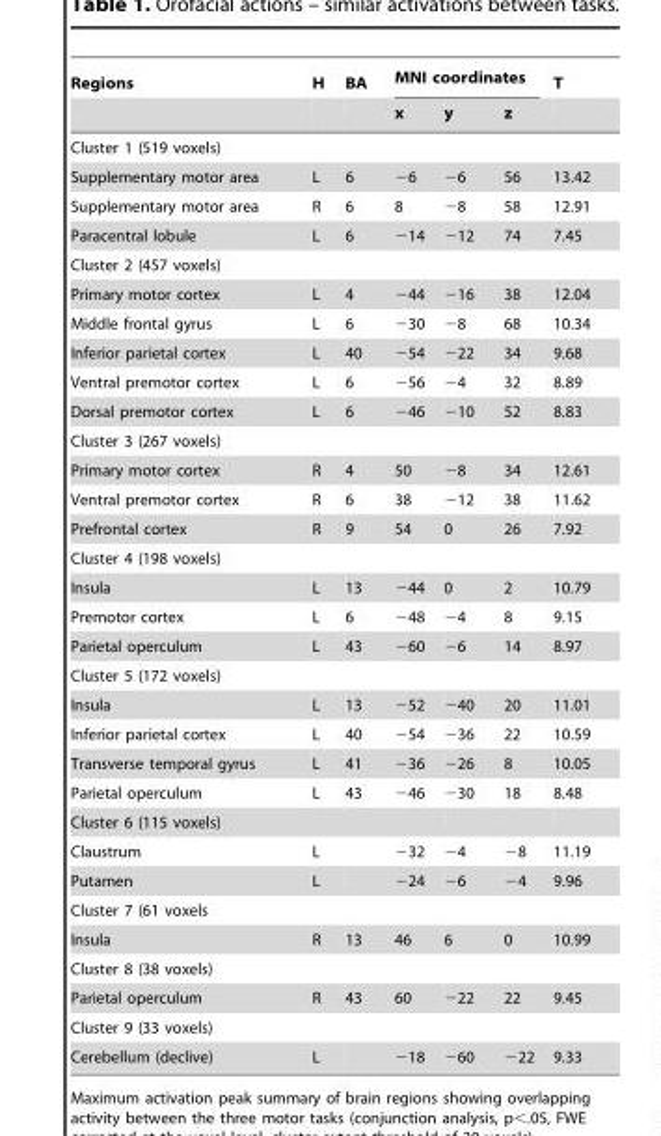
<table><thead><tr><td rowspan="2">Regions</td><td rowspan="2">H</td><td rowspan="2">BA</td><td colspan="3">MNI coordinates</td><td rowspan="2">T</td></tr><tr><td>x</td><td>y</td><td>z</td></tr></thead><tbody><tr><td colspan="7">Cluster 1 (519 voxels)</td></tr><tr><td>Supplementary motor area</td><td>L</td><td>6</td><td>−6</td><td>−6</td><td>56</td><td>13.42</td></tr><tr><td>Supplementary motor area</td><td>R</td><td>6</td><td>8</td><td>−8</td><td>58</td><td>12.91</td></tr><tr><td>Paracentral lobule</td><td>L</td><td>6</td><td>−14</td><td>−12</td><td>74</td><td>7.45</td></tr><tr><td colspan="7">Cluster 2 (457 voxels)</td></tr><tr><td>Primary motor cortex</td><td>L</td><td>4</td><td>−44</td><td>−16</td><td>38</td><td>12.04</td></tr><tr><td>Middle frontal gyrus</td><td>L</td><td>6</td><td>−30</td><td>−8</td><td>68</td><td>10.34</td></tr><tr><td>Inferior parietal cortex</td><td>L</td><td>40</td><td>−54</td><td>−22</td><td>34</td><td>9.68</td></tr><tr><td>Ventral premotor cortex</td><td>L</td><td>6</td><td>−56</td><td>−4</td><td>32</td><td>8.89</td></tr><tr><td>Dorsal premotor cortex</td><td>L</td><td>6</td><td>−46</td><td>−10</td><td>52</td><td>8.83</td></tr><tr><td colspan="7">Cluster 3 (267 voxels)</td></tr><tr><td>Primary motor cortex</td><td>R</td><td>4</td><td>50</td><td>−8</td><td>34</td><td>12.61</td></tr><tr><td>Ventral premotor cortex</td><td>R</td><td>6</td><td>38</td><td>−12</td><td>38</td><td>11.62</td></tr><tr><td>Prefrontal cortex</td><td>R</td><td>9</td><td>54</td><td>0</td><td>26</td><td>7.92</td></tr><tr><td colspan="7">Cluster 4 (198 voxels)</td></tr><tr><td>Insula</td><td>L</td><td>13</td><td>−44</td><td>0</td><td>2</td><td>10.79</td></tr><tr><td>Premotor cortex</td><td>L</td><td>6</td><td>−48</td><td>−4</td><td>8</td><td>9.15</td></tr><tr><td>Parietal operculum</td><td>L</td><td>43</td><td>−60</td><td>−6</td><td>14</td><td>8.97</td></tr><tr><td colspan="7">Cluster 5 (172 voxels)</td></tr><tr><td>Insula</td><td>L</td><td>13</td><td>−52</td><td>−40</td><td>20</td><td>11.01</td></tr><tr><td>Inferior parietal cortex</td><td>L</td><td>40</td><td>−54</td><td>−36</td><td>22</td><td>10.59</td></tr><tr><td>Transverse temporal gyrus</td><td>L</td><td>41</td><td>−36</td><td>−26</td><td>8</td><td>10.05</td></tr><tr><td>Parietal operculum</td><td>L</td><td>43</td><td>−46</td><td>−30</td><td>18</td><td>8.48</td></tr><tr><td colspan="7">Cluster 6 (115 voxels)</td></tr><tr><td>Claustrum</td><td>L</td><td></td><td>−32</td><td>−4</td><td>−8</td><td>11.19</td></tr><tr><td>Putamen</td><td>L</td><td></td><td>−24</td><td>−6</td><td>−4</td><td>9.96</td></tr><tr><td colspan="7">Cluster 7 (61 voxels</td></tr><tr><td>Insula</td><td>R</td><td>13</td><td>46</td><td>6</td><td>0</td><td>10.99</td></tr><tr><td colspan="7">Cluster 8 (38 voxels)</td></tr><tr><td>Parietal operculum</td><td>R</td><td>43</td><td>60</td><td>−22</td><td>22</td><td>9.45</td></tr><tr><td colspan="7">Cluster 9 (33 voxels)</td></tr><tr><td>Cerebellum (declive)</td><td>L</td><td></td><td>−18</td><td>−60</td><td>−22</td><td>9.33</td></tr></tbody></table>